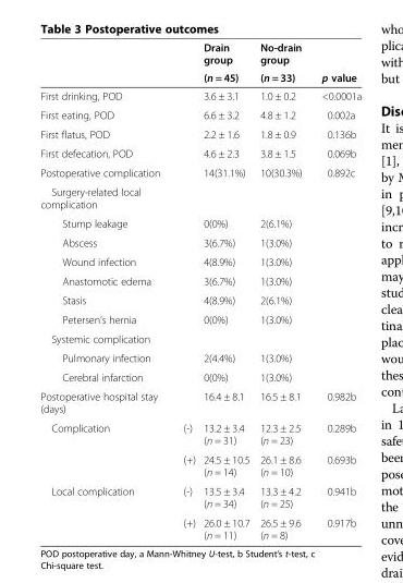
<table><thead><tr><td rowspan="2"></td><td rowspan="2"></td><td rowspan="2">Drain group (n = 45)</td><td rowspan="2">No-drain group (n = 33)</td><td rowspan="2">p value</td></tr><tr></tr></thead><tbody><tr><td>First drinking, POD</td><td></td><td>3.6 ± 3.1</td><td>1.0 ± 0.2</td><td>&lt;0.0001a</td></tr><tr><td>First eating, POD</td><td></td><td>6.6 ± 3.2</td><td>4.8 ± 1.2</td><td>0.002a</td></tr><tr><td>First flatus, POD</td><td></td><td>2.2 ± 1.6</td><td>1.8 ± 0.9</td><td>0.136b</td></tr><tr><td>First defecation, POD</td><td></td><td>4.6 ± 2.3</td><td>3.8 ± 1.5</td><td>0.069b</td></tr><tr><td>Postoperative complication</td><td></td><td>14(31.1%)</td><td>10(30.3%)</td><td>0.892c</td></tr><tr><td colspan="5">Surgery-related local complication</td></tr><tr><td>Stump leakage</td><td></td><td>0(0%)</td><td>2(6.1%)</td><td></td></tr><tr><td>Abscess</td><td></td><td>3(6.7%)</td><td>1(3.0%)</td><td></td></tr><tr><td>Wound infection</td><td></td><td>4(8.9%)</td><td>1(3.0%)</td><td></td></tr><tr><td>Anastomotic edema</td><td></td><td>3(6.7%)</td><td>1(3.0%)</td><td></td></tr><tr><td>Stasis</td><td></td><td>4(8.9%)</td><td>2(6.1%)</td><td></td></tr><tr><td>Petersen’s hernia</td><td></td><td>0(0%)</td><td>1(3.0%)</td><td></td></tr><tr><td colspan="5">Systemic complication</td></tr><tr><td>Pulmonary infection</td><td></td><td>2(4.4%)</td><td>1(3.0%)</td><td></td></tr><tr><td>Cerebral infarction</td><td></td><td>0(0%)</td><td>1(3.0%)</td><td></td></tr><tr><td>Postoperative hospital stay (days)</td><td></td><td>16.4 ± 8.1</td><td>16.5 ± 8.1</td><td>0.982b</td></tr><tr><td rowspan="2">Complication</td><td>(-)</td><td>13.2 ± 3.4 (n = 31)</td><td>12.3 ± 2.5 (n = 23)</td><td>0.289b</td></tr><tr><td>(+)</td><td>24.5 ± 10.5 (n = 14)</td><td>26.1 ± 8.6 (n = 10)</td><td>0.693b</td></tr><tr><td rowspan="2">Local complication</td><td>(-)</td><td>13.5 ± 3.4 (n = 34)</td><td>13.3 ± 4.2 (n = 25)</td><td>0.941b</td></tr><tr><td>(+)</td><td>26.0 ± 10.7 (n = 11)</td><td>26.5 ± 9.6 (n = 8)</td><td>0.917b</td></tr></tbody></table>